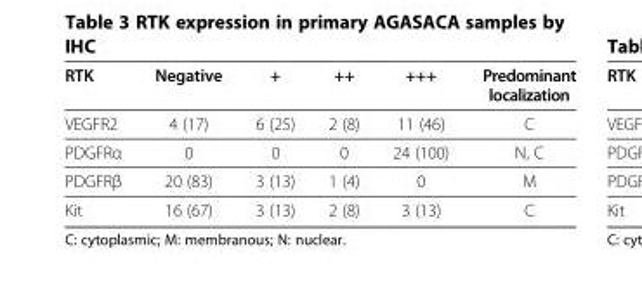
<table><thead><tr><td>RTK</td><td>Negative</td><td>+</td><td>++</td><td>+++</td><td>Predominant localization</td></tr></thead><tbody><tr><td>VEGFR2</td><td>4 (17)</td><td>6 (25)</td><td>2 (8)</td><td>11 (46)</td><td>C</td></tr><tr><td>PDGFRα</td><td>0</td><td>0</td><td>0</td><td>24 (100)</td><td>N, C</td></tr><tr><td>PDGFRβ</td><td>20 (83)</td><td>3 (13)</td><td>1 (4)</td><td>0</td><td>M</td></tr><tr><td>Kit</td><td>16 (67)</td><td>3 (13)</td><td>2 (8)</td><td>3 (13)</td><td>C</td></tr></tbody></table>